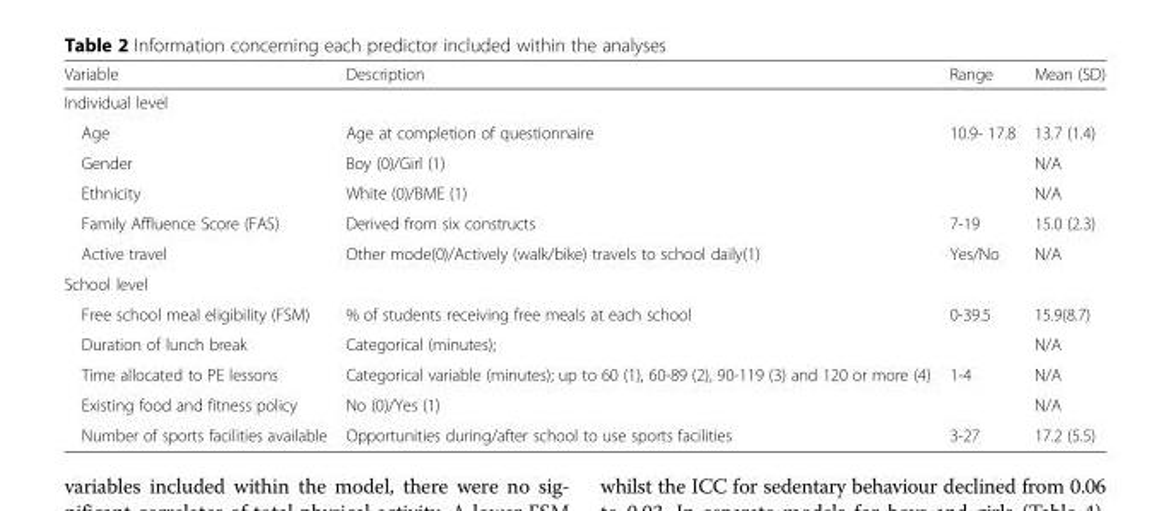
<table><thead><tr><td>Variable</td><td>Description</td><td>Range</td><td>Mean (SD)</td></tr></thead><tbody><tr><td colspan="4">Individual level</td></tr><tr><td>Age</td><td>Age at completion of questionnaire</td><td>10.9- 17.8</td><td>13.7 (1.4)</td></tr><tr><td>Gender</td><td>Boy (0)/Girl (1)</td><td></td><td>N/A</td></tr><tr><td>Ethnicity</td><td>White (0)/BME (1)</td><td></td><td>N/A</td></tr><tr><td>Family Affluence Score (FAS)</td><td>Derived from six constructs</td><td>7-19</td><td>15.0 (2.3)</td></tr><tr><td>Active travel</td><td>Other mode(0)/Actively (walk/bike) travels to school daily(1)</td><td>Yes/No</td><td>N/A</td></tr><tr><td colspan="4">School level</td></tr><tr><td>Free school meal eligibility (FSM)</td><td>% of students receiving free meals at each school</td><td>0-39.5</td><td>15.9(8.7)</td></tr><tr><td>Duration of lunch break</td><td>Categorical (minutes);</td><td></td><td>N/A</td></tr><tr><td>Time allocated to PE lessons</td><td>Categorical variable (minutes); up to 60 (1), 60-89 (2), 90-119 (3) and 120 or more (4)</td><td>1-4</td><td>N/A</td></tr><tr><td>Existing food and fitness policy</td><td>No (0)/Yes (1)</td><td></td><td>N/A</td></tr><tr><td>Number of sports facilities available</td><td>Opportunities during/after school to use sports facilities</td><td>3-27</td><td>17.2 (5.5)</td></tr></tbody></table>